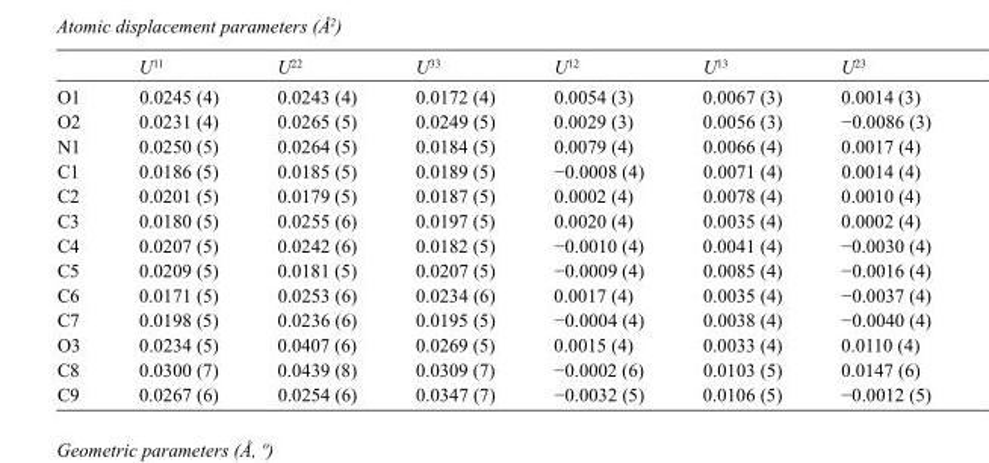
<table><thead><tr><td></td><td>U<sup>11</sup></td><td>U<sup>22</sup></td><td>U<sup>33</sup></td><td>U<sup>12</sup></td><td>U<sup>13</sup></td><td>U<sup>23</sup></td></tr></thead><tbody><tr><td>O1</td><td>0.0245 (4)</td><td>0.0243 (4)</td><td>0.0172 (4)</td><td>0.0054 (3)</td><td>0.0067 (3)</td><td>0.0014 (3)</td></tr><tr><td>O2</td><td>0.0231 (4)</td><td>0.0265 (5)</td><td>0.0249 (5)</td><td>0.0029 (3)</td><td>0.0056 (3)</td><td>−0.0086 (3)</td></tr><tr><td>N1</td><td>0.0250 (5)</td><td>0.0264 (5)</td><td>0.0184 (5)</td><td>0.0079 (4)</td><td>0.0066 (4)</td><td>0.0017 (4)</td></tr><tr><td>C1</td><td>0.0186 (5)</td><td>0.0185 (5)</td><td>0.0189 (5)</td><td>−0.0008 (4)</td><td>0.0071 (4)</td><td>0.0014 (4)</td></tr><tr><td>C2</td><td>0.0201 (5)</td><td>0.0179 (5)</td><td>0.0187 (5)</td><td>0.0002 (4)</td><td>0.0078 (4)</td><td>0.0010 (4)</td></tr><tr><td>C3</td><td>0.0180 (5)</td><td>0.0255 (6)</td><td>0.0197 (5)</td><td>0.0020 (4)</td><td>0.0035 (4)</td><td>0.0002 (4)</td></tr><tr><td>C4</td><td>0.0207 (5)</td><td>0.0242 (6)</td><td>0.0182 (5)</td><td>−0.0010 (4)</td><td>0.0041 (4)</td><td>−0.0030 (4)</td></tr><tr><td>C5</td><td>0.0209 (5)</td><td>0.0181 (5)</td><td>0.0207 (5)</td><td>−0.0009 (4)</td><td>0.0085 (4)</td><td>−0.0016 (4)</td></tr><tr><td>C6</td><td>0.0171 (5)</td><td>0.0253 (6)</td><td>0.0234 (6)</td><td>0.0017 (4)</td><td>0.0035 (4)</td><td>−0.0037 (4)</td></tr><tr><td>C7</td><td>0.0198 (5)</td><td>0.0236 (6)</td><td>0.0195 (5)</td><td>−0.0004 (4)</td><td>0.0038 (4)</td><td>−0.0040 (4)</td></tr><tr><td>O3</td><td>0.0234 (5)</td><td>0.0407 (6)</td><td>0.0269 (5)</td><td>0.0015 (4)</td><td>0.0033 (4)</td><td>0.0110 (4)</td></tr><tr><td>C8</td><td>0.0300 (7)</td><td>0.0439 (8)</td><td>0.0309 (7)</td><td>−0.0002 (6)</td><td>0.0103 (5)</td><td>0.0147 (6)</td></tr><tr><td>C9</td><td>0.0267 (6)</td><td>0.0254 (6)</td><td>0.0347 (7)</td><td>−0.0032 (5)</td><td>0.0106 (5)</td><td>−0.0012 (5)</td></tr></tbody></table>